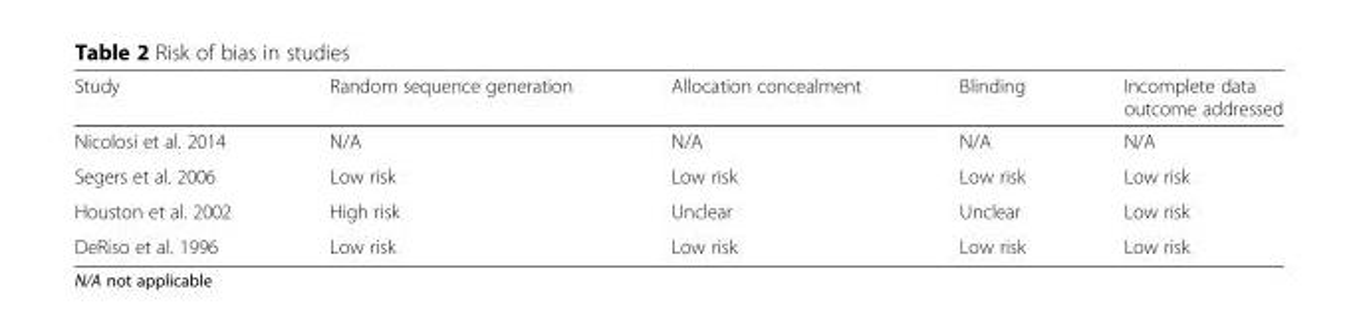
<table><thead><tr><td>Study</td><td>Random sequence generation</td><td>Allocation concealment</td><td>Blinding</td><td>Incomplete data outcome addressed</td></tr></thead><tbody><tr><td>Nicolosi et al. 2014</td><td>N/A</td><td>N/A</td><td>N/A</td><td>N/A</td></tr><tr><td>Segers et al. 2006</td><td>Low risk</td><td>Low risk</td><td>Low risk</td><td>Low risk</td></tr><tr><td>Houston et al. 2002</td><td>High risk</td><td>Unclear</td><td>Unclear</td><td>Low risk</td></tr><tr><td>DeRiso et al. 1996</td><td>Low risk</td><td>Low risk</td><td>Low risk</td><td>Low risk</td></tr></tbody></table>